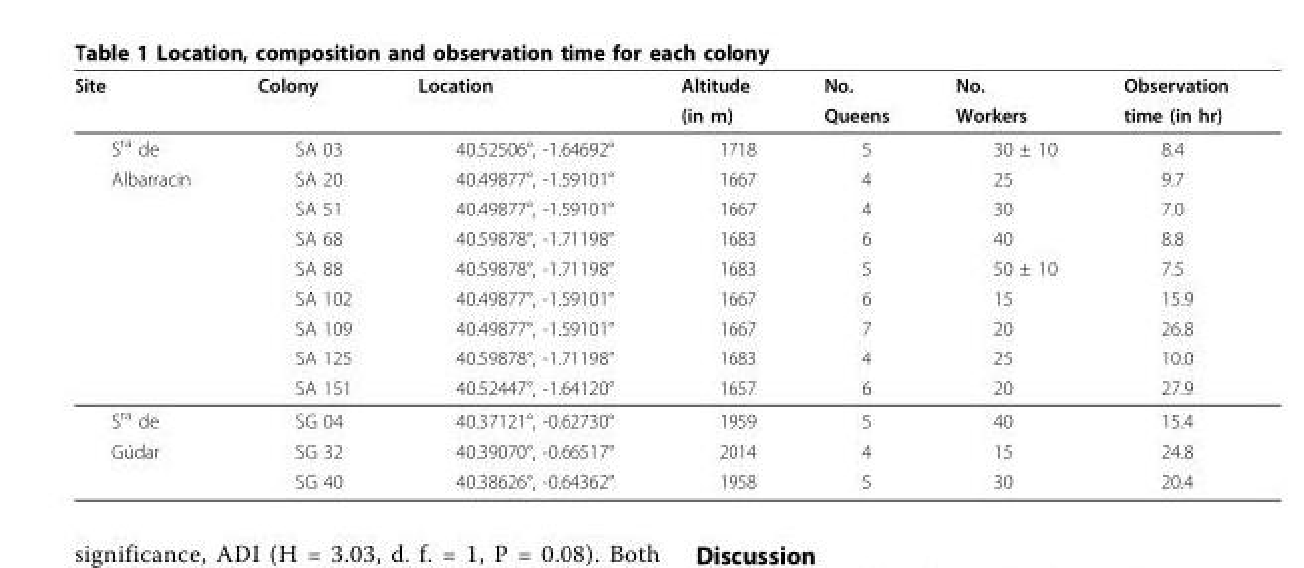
<table><thead><tr><td rowspan="2">Site</td><td rowspan="2">Colony</td><td rowspan="2">Location</td><td rowspan="2">Altitude (in m)</td><td rowspan="2">No. Queens</td><td rowspan="2">No. Workers</td><td rowspan="2">Observation time (in hr)</td></tr><tr></tr></thead><tbody><tr><td>S<sup>ra</sup> de</td><td>SA 03</td><td>40.52506°, -1.64692°</td><td>1718</td><td>5</td><td>30 ± 10</td><td>8.4</td></tr><tr><td rowspan="8">Albarracin</td><td>SA 20</td><td>40.49877°, -1.59101°</td><td>1667</td><td>4</td><td>25</td><td>9.7</td></tr><tr><td>SA 51</td><td>40.49877°, -1.59101°</td><td>1667</td><td>4</td><td>30</td><td>7.0</td></tr><tr><td>SA 68</td><td>40.59878°, -1.71198°</td><td>1683</td><td>6</td><td>40</td><td>8.8</td></tr><tr><td>SA 88</td><td>40.59878°, -1.71198°</td><td>1683</td><td>5</td><td>50 ± 10</td><td>7.5</td></tr><tr><td>SA 102</td><td>40.49877°, -1.59101°</td><td>1667</td><td>6</td><td>15</td><td>15.9</td></tr><tr><td>SA 109</td><td>40.49877°, -1.59101°</td><td>1667</td><td>7</td><td>20</td><td>26.8</td></tr><tr><td>SA 125</td><td>40.59878°, -1.71198°</td><td>1683</td><td>4</td><td>25</td><td>10.0</td></tr><tr><td>SA 151</td><td>40.52447°, -1.64120°</td><td>1657</td><td>6</td><td>20</td><td>27.9</td></tr><tr><td>S<sup>ra</sup> de</td><td>SG 04</td><td>40.37121°, -0.62730°</td><td>1959</td><td>5</td><td>40</td><td>15.4</td></tr><tr><td rowspan="2">Gúdar</td><td>SG 32</td><td>40.39070°, -0.66517°</td><td>2014</td><td>4</td><td>15</td><td>24.8</td></tr><tr><td>SG 40</td><td>40.38626°, -0.64362°</td><td>1958</td><td>5</td><td>30</td><td>20.4</td></tr></tbody></table>